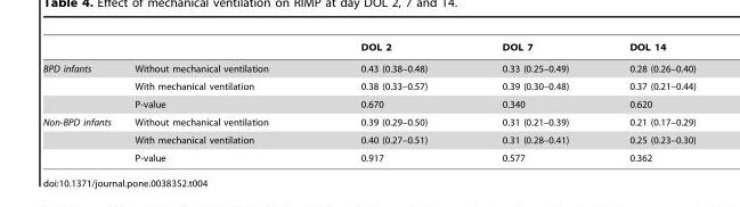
<table><thead><tr><td></td><td></td><td>DOL 2</td><td>DOL 7</td><td>DOL 14</td></tr></thead><tbody><tr><td rowspan="3">BPD infants</td><td>Without mechanical ventilation</td><td>0.43 (0.38–0.48)</td><td>0.33 (0.25–0.49)</td><td>0.28 (0.26–0.40)</td></tr><tr><td>With mechanical ventilation</td><td>0.38 (0.33–0.57)</td><td>0.39 (0.30–0.48)</td><td>0.37 (0.21–0.44)</td></tr><tr><td>P-value</td><td>0.670</td><td>0.340</td><td>0.620</td></tr><tr><td rowspan="3">Non-BPD infants</td><td>Without mechanical ventilation</td><td>0.39 (0.29–0.50)</td><td>0.31 (0.21–0.39)</td><td>0.21 (0.17–0.29)</td></tr><tr><td>With mechanical ventilation</td><td>0.40 (0.27–0.51)</td><td>0.31 (0.28–0.41)</td><td>0.25 (0.23–0.30)</td></tr><tr><td>P-value</td><td>0.917</td><td>0.577</td><td>0.362</td></tr></tbody></table>